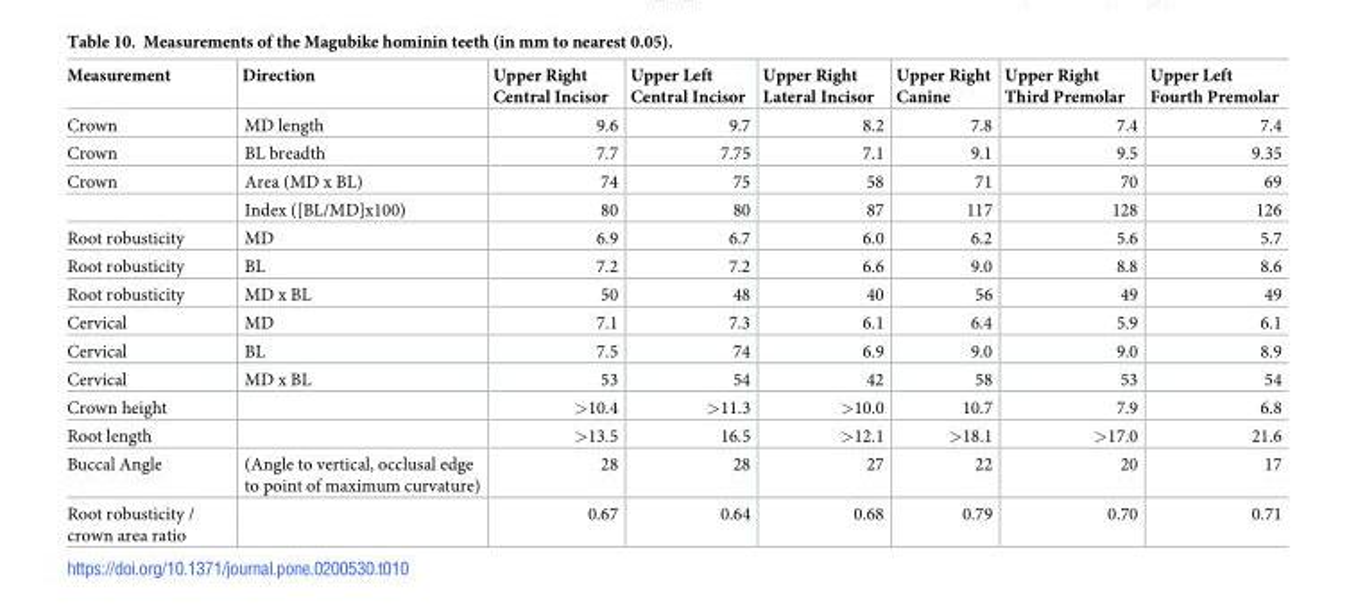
<table><thead><tr><td>Measurement</td><td>Direction</td><td>Upper Right Central Incisor</td><td>Upper Left Central Incisor</td><td>Upper Right Lateral Incisor</td><td>Upper Right Canine</td><td>Upper Right Third Premolar</td><td>Upper Left Fourth Premolar</td></tr></thead><tbody><tr><td>Crown</td><td>MD length</td><td>9.6</td><td>9.7</td><td>8.2</td><td>7.8</td><td>7.4</td><td>7.4</td></tr><tr><td>Crown</td><td>BL breadth</td><td>7.7</td><td>7.75</td><td>7.1</td><td>9.1</td><td>9.5</td><td>9.35</td></tr><tr><td rowspan="2">Crown</td><td>Area (MD x BL)</td><td>74</td><td>75</td><td>58</td><td>71</td><td>70</td><td>69</td></tr><tr><td>Index ([BL/MD]x100)</td><td>80</td><td>80</td><td>87</td><td>117</td><td>128</td><td>126</td></tr><tr><td>Root robusticity</td><td>MD</td><td>6.9</td><td>6.7</td><td>6.0</td><td>6.2</td><td>5.6</td><td>5.7</td></tr><tr><td>Root robusticity</td><td>BL</td><td>7.2</td><td>7.2</td><td>6.6</td><td>9.0</td><td>8.8</td><td>8.6</td></tr><tr><td>Root robusticity</td><td>MD x BL</td><td>50</td><td>48</td><td>40</td><td>56</td><td>49</td><td>49</td></tr><tr><td>Cervical</td><td>MD</td><td>7.1</td><td>7.3</td><td>6.1</td><td>6.4</td><td>5.9</td><td>6.1</td></tr><tr><td>Cervical</td><td>BL</td><td>7.5</td><td>74</td><td>6.9</td><td>9.0</td><td>9.0</td><td>8.9</td></tr><tr><td>Cervical</td><td>MD x BL</td><td>53</td><td>54</td><td>42</td><td>58</td><td>53</td><td>54</td></tr><tr><td>Crown height</td><td></td><td>&gt;10.4</td><td>&gt;11.3</td><td>&gt;10.0</td><td>10.7</td><td>7.9</td><td>6.8</td></tr><tr><td>Root length</td><td></td><td>&gt;13.5</td><td>16.5</td><td>&gt;12.1</td><td>&gt;18.1</td><td>&gt;17.0</td><td>21.6</td></tr><tr><td>Buccal Angle</td><td>(Angle to vertical, occlusal edge to point of maximum curvature)</td><td>28</td><td>28</td><td>27</td><td>22</td><td>20</td><td>17</td></tr><tr><td>Root robusticity / crown area ratio</td><td></td><td>0.67</td><td>0.64</td><td>0.68</td><td>0.79</td><td>0.70</td><td>0.71</td></tr></tbody></table>